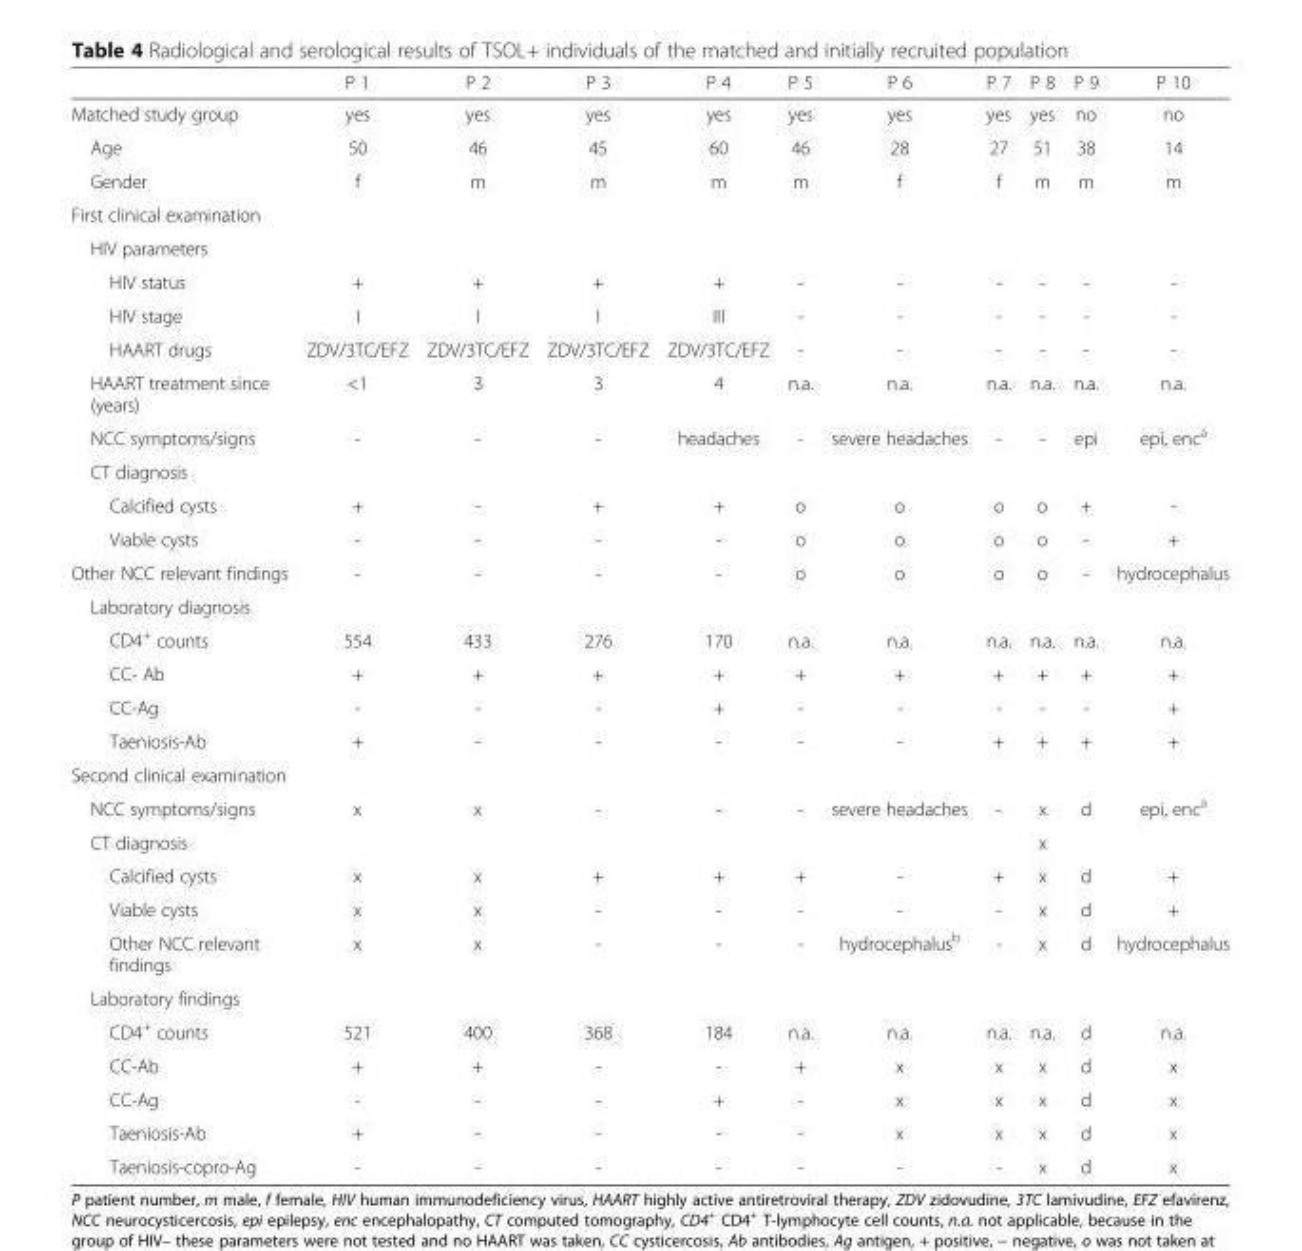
<table><thead><tr><td></td><td>P 1</td><td>P 2</td><td>P 3</td><td>P 4</td><td>P 5</td><td>P 6</td><td>P 7</td><td>P 8</td><td>P 9</td><td>P 10</td></tr></thead><tbody><tr><td>Matched study group</td><td>yes</td><td>yes</td><td>yes</td><td>yes</td><td>yes</td><td>yes</td><td>yes</td><td>yes</td><td>no</td><td>no</td></tr><tr><td>Age</td><td>50</td><td>46</td><td>45</td><td>60</td><td>46</td><td>28</td><td>27</td><td>51</td><td>38</td><td>14</td></tr><tr><td>Gender</td><td>f</td><td>m</td><td>m</td><td>m</td><td>m</td><td>f</td><td>f</td><td>m</td><td>m</td><td>m</td></tr><tr><td colspan="11">First clinical examination</td></tr><tr><td colspan="11">HIV parameters</td></tr><tr><td>HIV status</td><td>+</td><td>+</td><td>+</td><td>+</td><td>-</td><td>-</td><td>-</td><td>-</td><td>-</td><td>-</td></tr><tr><td>HIV stage</td><td>I</td><td>I</td><td>I</td><td>III</td><td>-</td><td>-</td><td>-</td><td>-</td><td>-</td><td>-</td></tr><tr><td>HAART drugs</td><td>ZDV/3TC/EFZ</td><td>ZDV/3TC/EFZ</td><td>ZDV/3TC/EFZ</td><td>ZDV/3TC/EFZ</td><td>-</td><td>-</td><td>-</td><td>-</td><td>-</td><td>-</td></tr><tr><td>HAART treatment since (years)</td><td>&lt;1</td><td>3</td><td>3</td><td>4</td><td>n.a.</td><td>n.a.</td><td>n.a.</td><td>n.a.</td><td>n.a.</td><td>n.a.</td></tr><tr><td>NCC symptoms/signs</td><td>-</td><td>-</td><td>-</td><td>headaches</td><td>-</td><td>severe headaches</td><td>-</td><td>-</td><td>epi</td><td>epi, enc<sup>a</sup></td></tr><tr><td colspan="11">CT diagnosis</td></tr><tr><td>Calcified cysts</td><td>+</td><td>-</td><td>+</td><td>+</td><td>o</td><td>o</td><td>o</td><td>o</td><td>+</td><td>-</td></tr><tr><td>Viable cysts</td><td>-</td><td>-</td><td>-</td><td>-</td><td>o</td><td>o</td><td>o</td><td>o</td><td>-</td><td>+</td></tr><tr><td>Other NCC relevant findings</td><td>-</td><td>-</td><td>-</td><td>-</td><td>o</td><td>o</td><td>o</td><td>o</td><td>-</td><td>hydrocephalus</td></tr><tr><td colspan="11">Laboratory diagnosis</td></tr><tr><td>CD4<sup>+</sup> counts</td><td>554</td><td>433</td><td>276</td><td>170</td><td>n.a.</td><td>n.a.</td><td>n.a.</td><td>n.a.</td><td>n.a.</td><td>n.a.</td></tr><tr><td>CC- Ab</td><td>+</td><td>+</td><td>+</td><td>+</td><td>+</td><td>+</td><td>+</td><td>+</td><td>+</td><td>+</td></tr><tr><td>CC-Ag</td><td>-</td><td>-</td><td>-</td><td>+</td><td>-</td><td>-</td><td>-</td><td>-</td><td>-</td><td>+</td></tr><tr><td>Taeniosis-Ab</td><td>+</td><td>-</td><td>-</td><td>-</td><td>-</td><td>-</td><td>+</td><td>+</td><td>+</td><td>+</td></tr><tr><td colspan="11">Second clinical examination</td></tr><tr><td>NCC symptoms/signs</td><td>x</td><td>x</td><td>-</td><td>-</td><td>-</td><td>severe headaches</td><td>-</td><td>x</td><td>d</td><td>epi, enc<sup>a</sup></td></tr><tr><td>CT diagnosis</td><td></td><td></td><td></td><td></td><td></td><td></td><td></td><td>x</td><td></td><td></td></tr><tr><td>Calcified cysts</td><td>x</td><td>x</td><td>+</td><td>+</td><td>+</td><td>-</td><td>+</td><td>x</td><td>d</td><td>+</td></tr><tr><td>Viable cysts</td><td>x</td><td>x</td><td>-</td><td>-</td><td>-</td><td>-</td><td>-</td><td>x</td><td>d</td><td>+</td></tr><tr><td>Other NCC relevant findings</td><td>x</td><td>x</td><td>-</td><td>-</td><td>-</td><td>hydrocephalus<sup>b</sup></td><td>-</td><td>x</td><td>d</td><td>hydrocephalus</td></tr><tr><td colspan="11">Laboratory findings</td></tr><tr><td>CD4<sup>+</sup> counts</td><td>521</td><td>400</td><td>368</td><td>184</td><td>n.a.</td><td>n.a.</td><td>n.a.</td><td>n.a.</td><td>d</td><td>n.a.</td></tr><tr><td>CC-Ab</td><td>+</td><td>+</td><td>-</td><td>-</td><td>+</td><td>x</td><td>x</td><td>x</td><td>d</td><td>x</td></tr><tr><td>CC-Ag</td><td>-</td><td>-</td><td>-</td><td>+</td><td>-</td><td>x</td><td>x</td><td>x</td><td>d</td><td>x</td></tr><tr><td>Taeniosis-Ab</td><td>+</td><td>-</td><td>-</td><td>-</td><td>-</td><td>x</td><td>x</td><td>x</td><td>d</td><td>x</td></tr><tr><td>Taeniosis-copro-Ag</td><td>-</td><td>-</td><td>-</td><td>-</td><td>-</td><td>-</td><td>-</td><td>x</td><td>d</td><td>x</td></tr></tbody></table>